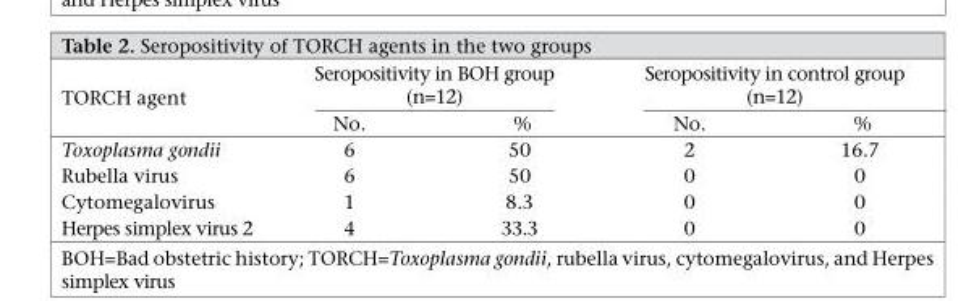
<table><thead><tr><td rowspan="2">TORCH agent</td><td colspan="2">Seropositivity in BOH group (n=12)</td><td colspan="2">Seropositivity in control group (n=12)</td></tr><tr><td>No.</td><td>%</td><td>No.</td><td>%</td></tr></thead><tbody><tr><td>Toxoplasma gondii</td><td>6</td><td>50</td><td>2</td><td>16.7</td></tr><tr><td>Rubella virus</td><td>6</td><td>50</td><td>0</td><td>0</td></tr><tr><td>Cytomegalovirus</td><td>1</td><td>8.3</td><td>0</td><td>0</td></tr><tr><td>Herpes simplex virus 2</td><td>4</td><td>33.3</td><td>0</td><td>0</td></tr></tbody></table>